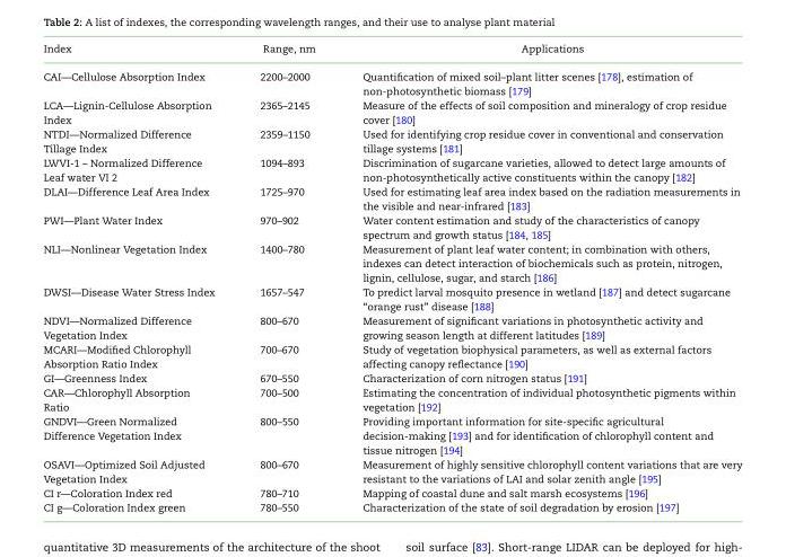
<table><thead><tr><td>Index</td><td>Range, nm</td><td>Applications</td></tr></thead><tbody><tr><td>CAI—Cellulose Absorption Index</td><td>2200–2000</td><td>Quantification of mixed soil–plant litter scenes [178], estimation of non-photosynthetic biomass [179]</td></tr><tr><td>LCA—Lignin-Cellulose Absorption Index</td><td>2365–2145</td><td>Measure of the effects of soil composition and mineralogy of crop residue cover [180]</td></tr><tr><td>NTDI—Normalized Difference Tillage Index</td><td>2359–1150</td><td>Used for identifying crop residue cover in conventional and conservation tillage systems [181]</td></tr><tr><td>LWVI-1 – Normalized Difference Leaf water VI 2</td><td>1094–893</td><td>Discrimination of sugarcane varieties, allowed to detect large amounts of non-photosynthetically active constituents within the canopy [182]</td></tr><tr><td>DLAI—Difference Leaf Area Index</td><td>1725–970</td><td>Used for estimating leaf area index based on the radiation measurements in the visible and near-infrared [183]</td></tr><tr><td>PWI—Plant Water Index</td><td>970–902</td><td>Water content estimation and study of the characteristics of canopy spectrum and growth status [184, 185]</td></tr><tr><td>NLI—Nonlinear Vegetation Index</td><td>1400–780</td><td>Measurement of plant leaf water content; in combination with others, indexes can detect interaction of biochemicals such as protein, nitrogen, lignin, cellulose, sugar, and starch [186]</td></tr><tr><td>DWSI—Disease Water Stress Index</td><td>1657–547</td><td>To predict larval mosquito presence in wetland [187] and detect sugarcane “orange rust” disease [188]</td></tr><tr><td>NDVI—Normalized Difference Vegetation Index</td><td>800–670</td><td>Measurement of significant variations in photosynthetic activity and growing season length at different latitudes [189]</td></tr><tr><td>MCARI—Modified Chlorophyll Absorption Ratio Index</td><td>700–670</td><td>Study of vegetation biophysical parameters, as well as external factors affecting canopy reflectance [190]</td></tr><tr><td>GI—Greenness Index</td><td>670–550</td><td>Characterization of corn nitrogen status [191]</td></tr><tr><td>CAR—Chlorophyll Absorption Ratio</td><td>700–500</td><td>Estimating the concentration of individual photosynthetic pigments within vegetation [192]</td></tr><tr><td>GNDVI—Green Normalized Difference Vegetation Index</td><td>800–550</td><td>Providing important information for site-specific agricultural decision-making [193] and for identification of chlorophyll content and tissue nitrogen [194]</td></tr><tr><td>OSAVI—Optimized Soil Adjusted Vegetation Index</td><td>800–670</td><td>Measurement of highly sensitive chlorophyll content variations that are very resistant to the variations of LAI and solar zenith angle [195]</td></tr><tr><td>CI r—Coloration Index red</td><td>780–710</td><td>Mapping of coastal dune and salt marsh ecosystems [196]</td></tr><tr><td>CI g—Coloration Index green</td><td>780–550</td><td>Characterization of the state of soil degradation by erosion [197]</td></tr></tbody></table>